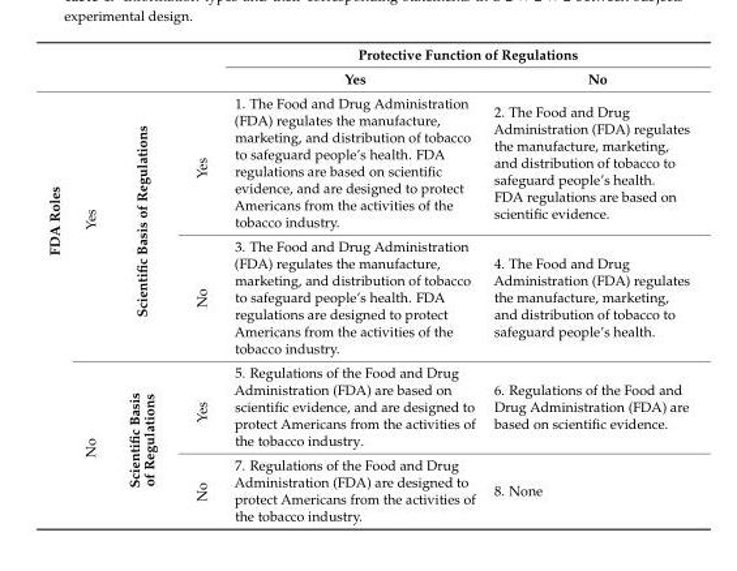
<table><thead><tr><td rowspan="2"></td><td rowspan="2"></td><td rowspan="2"></td><td rowspan="2"></td><td colspan="2">Protective Function of Regulations</td></tr><tr><td>Yes</td><td>No</td></tr></thead><tbody><tr><td rowspan="4">FDA Roles</td><td rowspan="2">Yes</td><td rowspan="2">Scientific Basis of Regulations</td><td>Yes</td><td>1. The Food and Drug Administration (FDA) regulates the manufacture, marketing, and distribution of tobacco to safeguard people’s health. FDA regulations are based on scientific evidence, and are designed to protect Americans from the activities of the tobacco industry.</td><td>2. The Food and Drug Administration (FDA) regulates the manufacture, marketing, and distribution of tobacco to safeguard people’s health. FDA regulations are based on scientific evidence.</td></tr><tr><td>No</td><td>3. The Food and Drug Administration (FDA) regulates the manufacture, marketing, and distribution of tobacco to safeguard people’s health. FDA regulations are designed to protect Americans from the activities of the tobacco industry.</td><td>4. The Food and Drug Administration (FDA) regulates the manufacture, marketing, and distribution of tobacco to safeguard people’s health.</td></tr><tr><td rowspan="2">No</td><td rowspan="2">Scientific Basis of Regulations</td><td>Yes</td><td>5. Regulations of the Food and Drug Administration (FDA) are based on scientific evidence, and are designed to protect Americans from the activities of the tobacco industry.</td><td>6. Regulations of the Food and Drug Administration (FDA) are based on scientific evidence.</td></tr><tr><td>No</td><td>7. Regulations of the Food and Drug Administration (FDA) are designed to protect Americans from the activities of the tobacco industry.</td><td>8. None</td></tr></tbody></table>